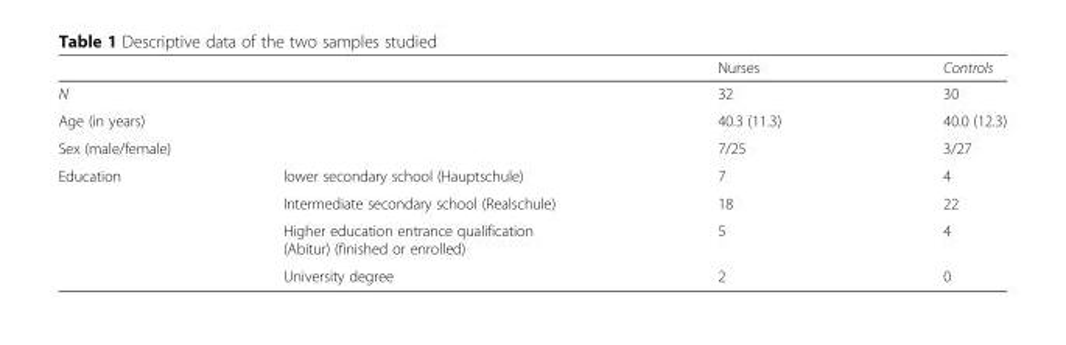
<table><thead><tr><td></td><td></td><td>Nurses</td><td>Controls</td></tr></thead><tbody><tr><td colspan="2">N</td><td>32</td><td>30</td></tr><tr><td colspan="2">Age (in years)</td><td>40.3 (11.3)</td><td>40.0 (12.3)</td></tr><tr><td colspan="2">Sex (male/female)</td><td>7/25</td><td>3/27</td></tr><tr><td rowspan="4">Education</td><td>lower secondary school (Hauptschule)</td><td>7</td><td>4</td></tr><tr><td>Intermediate secondary school (Realschule)</td><td>18</td><td>22</td></tr><tr><td>Higher education entrance qualification (Abitur) (finished or enrolled)</td><td>5</td><td>4</td></tr><tr><td>University degree</td><td>2</td><td>0</td></tr></tbody></table>